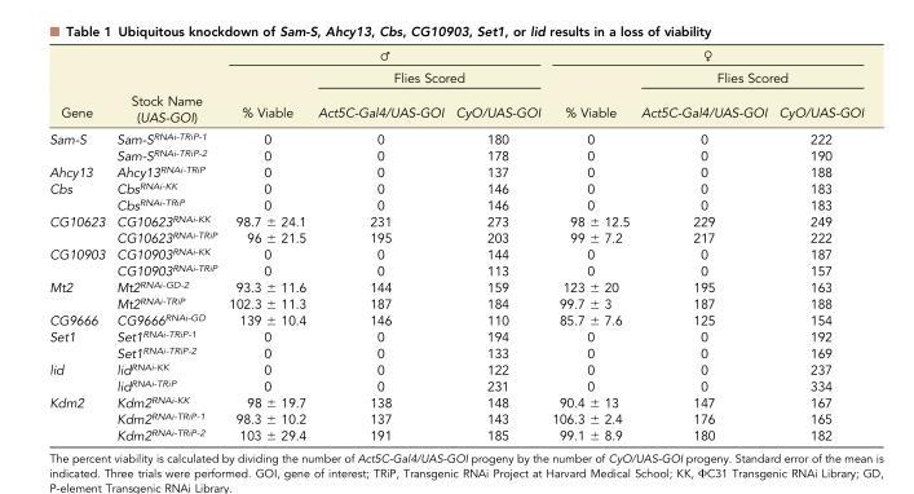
<table><thead><tr><td rowspan="3">Gene</td><td rowspan="3">Stock Name (UAS-GOI)</td><td colspan="3">♂</td><td colspan="3">♀</td></tr><tr><td rowspan="2">% Viable</td><td colspan="2">Flies Scored</td><td rowspan="2">% Viable</td><td colspan="2">Flies Scored</td></tr><tr><td>Act5C-Gal4/UAS-GOI</td><td>CyO/UAS-GOI</td><td>Act5C-Gal4/UAS-GOI</td><td>CyO/UAS-GOI</td></tr></thead><tbody><tr><td rowspan="2">Sam-S</td><td>Sam-S<sup>RNAi-TRiP-1</sup></td><td>0</td><td>0</td><td>180</td><td>0</td><td>0</td><td>222</td></tr><tr><td>Sam-S<sup>RNAi-TRiP-2</sup></td><td>0</td><td>0</td><td>178</td><td>0</td><td>0</td><td>190</td></tr><tr><td>Ahcy13</td><td>Ahcy13<sup>RNAi-TRiP</sup></td><td>0</td><td>0</td><td>137</td><td>0</td><td>0</td><td>188</td></tr><tr><td rowspan="2">Cbs</td><td>Cbs<sup>RNAi-KK</sup></td><td>0</td><td>0</td><td>146</td><td>0</td><td>0</td><td>183</td></tr><tr><td>Cbs<sup>RNAi-TRiP</sup></td><td>0</td><td>0</td><td>146</td><td>0</td><td>0</td><td>183</td></tr><tr><td rowspan="2">CG10623</td><td>CG10623<sup>RNAi-KK</sup></td><td>98.7 ± 24.1</td><td>231</td><td>273</td><td>98 ± 12.5</td><td>229</td><td>249</td></tr><tr><td>CG10623<sup>RNAi-TRiP</sup></td><td>96 ± 21.5</td><td>195</td><td>203</td><td>99 ± 7.2</td><td>217</td><td>222</td></tr><tr><td rowspan="2">CG10903</td><td>CG10903<sup>RNAi-KK</sup></td><td>0</td><td>0</td><td>144</td><td>0</td><td>0</td><td>187</td></tr><tr><td>CG10903<sup>RNAi-TRiP</sup></td><td>0</td><td>0</td><td>113</td><td>0</td><td>0</td><td>157</td></tr><tr><td rowspan="2">Mt2</td><td>Mt2<sup>RNAi-GD-2</sup></td><td>93.3 ± 11.6</td><td>144</td><td>159</td><td>123 ± 20</td><td>195</td><td>163</td></tr><tr><td>Mt2<sup>RNAi-TRiP</sup></td><td>102.3 ± 11.3</td><td>187</td><td>184</td><td>99.7 ± 3</td><td>187</td><td>188</td></tr><tr><td>CG9666</td><td>CG9666<sup>RNAi-GD</sup></td><td>139 ± 10.4</td><td>146</td><td>110</td><td>85.7 ± 7.6</td><td>125</td><td>154</td></tr><tr><td rowspan="2">Set1</td><td>Set1<sup>RNAi-TRiP-1</sup></td><td>0</td><td>0</td><td>194</td><td>0</td><td>0</td><td>192</td></tr><tr><td>Set1<sup>RNAi-TRiP-2</sup></td><td>0</td><td>0</td><td>133</td><td>0</td><td>0</td><td>169</td></tr><tr><td rowspan="2">lid</td><td>lid<sup>RNAi-KK</sup></td><td>0</td><td>0</td><td>122</td><td>0</td><td>0</td><td>237</td></tr><tr><td>lid<sup>RNAi-TRiP</sup></td><td>0</td><td>0</td><td>231</td><td>0</td><td>0</td><td>334</td></tr><tr><td rowspan="3">Kdm2</td><td>Kdm2<sup>RNAi-KK</sup></td><td>98 ± 19.7</td><td>138</td><td>148</td><td>90.4 ± 13</td><td>147</td><td>167</td></tr><tr><td>Kdm2<sup>RNAi-TRiP-1</sup></td><td>98.3 ± 10.2</td><td>137</td><td>143</td><td>106.3 ± 2.4</td><td>176</td><td>165</td></tr><tr><td>Kdm2<sup>RNAi-TRiP-2</sup></td><td>103 ± 29.4</td><td>191</td><td>185</td><td>99.1 ± 8.9</td><td>180</td><td>182</td></tr></tbody></table>